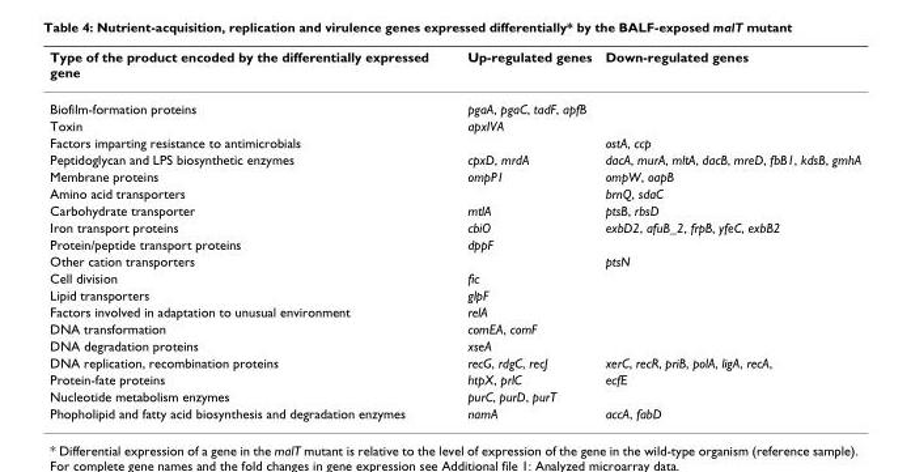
<table><thead><tr><td>Type of the product encoded by the differentially expressed gene</td><td>Up-regulated genes</td><td>Down-regulated genes</td></tr></thead><tbody><tr><td>Biofilm-formation proteins</td><td>pgaA, pgaC, tadF, apfB</td><td></td></tr><tr><td>Toxin</td><td>apxIVA</td><td></td></tr><tr><td>Factors imparting resistance to antimicrobials</td><td></td><td>ostA, ccp</td></tr><tr><td>Peptidoglycan and LPS biosynthetic enzymes</td><td>cpxD, mrdA</td><td>dacA, murA, mltA, dacB, mreD, fbB1, kdsB, gmhA</td></tr><tr><td>Membrane proteins</td><td>ompP1</td><td>ompW, oapB</td></tr><tr><td>Amino acid transporters</td><td></td><td>brnQ, sdaC</td></tr><tr><td>Carbohydrate transporter</td><td>mtlA</td><td>ptsB, rbsD</td></tr><tr><td>Iron transport proteins</td><td>cbiO</td><td>exbD2, afuB_2, frpB, yfeC, exbB2</td></tr><tr><td>Protein/peptide transport proteins</td><td>dppF</td><td></td></tr><tr><td>Other cation transporters</td><td></td><td>ptsN</td></tr><tr><td>Cell division</td><td>fic</td><td></td></tr><tr><td>Lipid transporters</td><td>glpF</td><td></td></tr><tr><td>Factors involved in adaptation to unusual environment</td><td>relA</td><td></td></tr><tr><td>DNA transformation</td><td>comEA, comF</td><td></td></tr><tr><td>DNA degradation proteins</td><td>xseA</td><td></td></tr><tr><td>DNA replication, recombination proteins</td><td>recG, rdgC, recJ</td><td>xerC, recR, priB, polA, ligA, recA,</td></tr><tr><td>Protein-fate proteins</td><td>htpX, prlC</td><td>ecfE</td></tr><tr><td>Nucleotide metabolism enzymes</td><td>purC, purD, purT</td><td></td></tr><tr><td>Phopholipid and fatty acid biosynthesis and degradation enzymes</td><td>namA</td><td>accA, fabD</td></tr></tbody></table>